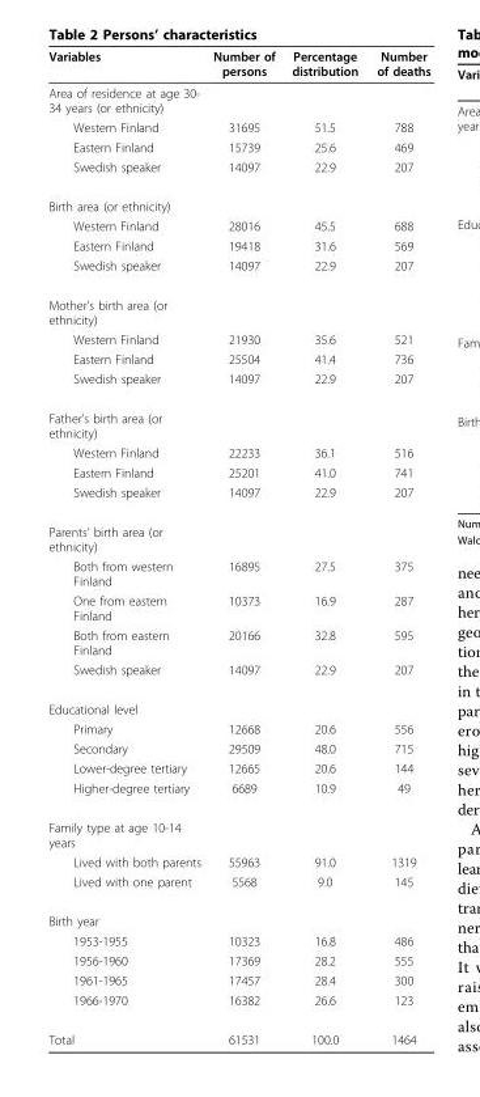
<table><tbody><tr><td>Variables</td><td>Number of persons</td><td>Percentage distribution</td><td>Number of deaths</td></tr><tr><td colspan="4">Area of residence at age 30- 34 years (or ethnicity)</td></tr><tr><td>Western Finland</td><td>31695</td><td>51.5</td><td>788</td></tr><tr><td>Eastern Finland</td><td>15739</td><td>25.6</td><td>469</td></tr><tr><td>Swedish speaker</td><td>14097</td><td>22.9</td><td>207</td></tr><tr><td colspan="4">Birth area (or ethnicity)</td></tr><tr><td>Western Finland</td><td>28016</td><td>45.5</td><td>688</td></tr><tr><td>Eastern Finland</td><td>19418</td><td>31.6</td><td>569</td></tr><tr><td>Swedish speaker</td><td>14097</td><td>22.9</td><td>207</td></tr><tr><td colspan="4">Mother’s birth area (or ethnicity)</td></tr><tr><td>Western Finland</td><td>21930</td><td>35.6</td><td>521</td></tr><tr><td>Eastern Finland</td><td>25504</td><td>41.4</td><td>736</td></tr><tr><td>Swedish speaker</td><td>14097</td><td>22.9</td><td>207</td></tr><tr><td colspan="4">Father’s birth area (or ethnicity)</td></tr><tr><td>Western Finland</td><td>22233</td><td>36.1</td><td>516</td></tr><tr><td>Eastern Finland</td><td>25201</td><td>41.0</td><td>741</td></tr><tr><td>Swedish speaker</td><td>14097</td><td>22.9</td><td>207</td></tr><tr><td colspan="4">Parents’ birth area (or ethnicity)</td></tr><tr><td>Both from western Finland</td><td>16895</td><td>27.5</td><td>375</td></tr><tr><td>One from eastern Finland</td><td>10373</td><td>16.9</td><td>287</td></tr><tr><td>Both from eastern Finland</td><td>20166</td><td>32.8</td><td>595</td></tr><tr><td>Swedish speaker</td><td>14097</td><td>22.9</td><td>207</td></tr><tr><td colspan="4">Educational level</td></tr><tr><td>Primary</td><td>12668</td><td>20.6</td><td>556</td></tr><tr><td>Secondary</td><td>29509</td><td>48.0</td><td>715</td></tr><tr><td>Lower-degree tertiary</td><td>12665</td><td>20.6</td><td>144</td></tr><tr><td>Higher-degree tertiary</td><td>6689</td><td>10.9</td><td>49</td></tr><tr><td colspan="4">Family type at age 10-14 years</td></tr><tr><td>Lived with both parents</td><td>55963</td><td>91.0</td><td>1319</td></tr><tr><td>Lived with one parent</td><td>5568</td><td>9.0</td><td>145</td></tr><tr><td colspan="4">Birth year</td></tr><tr><td>1953-1955</td><td>10323</td><td>16.8</td><td>486</td></tr><tr><td>1956-1960</td><td>17369</td><td>28.2</td><td>555</td></tr><tr><td>1961-1965</td><td>17457</td><td>28.4</td><td>300</td></tr><tr><td>1966-1970</td><td>16382</td><td>26.6</td><td>123</td></tr><tr><td>Total</td><td>61531</td><td>100.0</td><td>1464</td></tr></tbody></table>